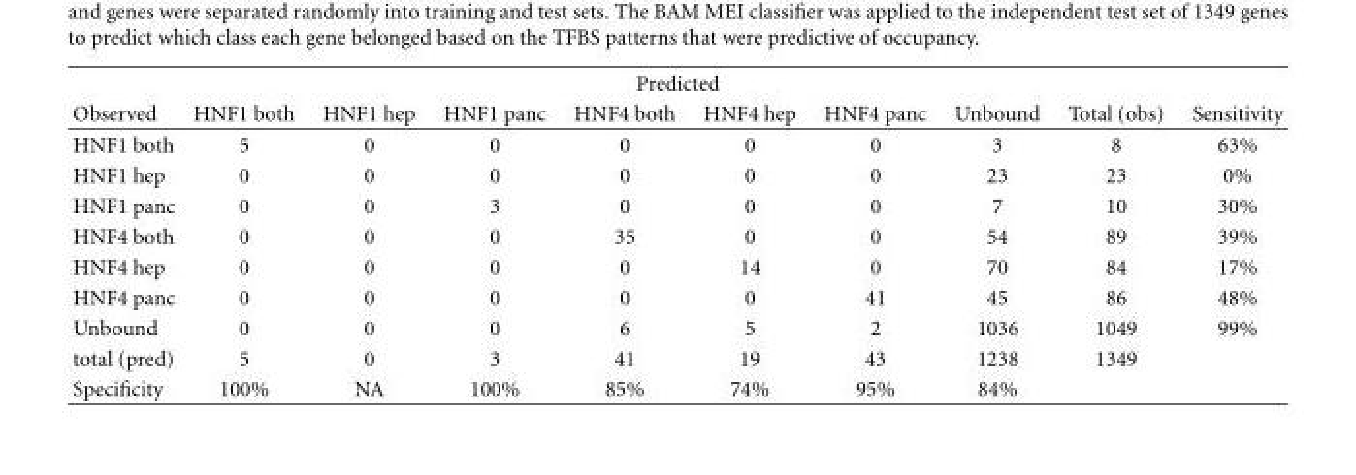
<table><thead><tr><td colspan="10">Predicted</td></tr><tr><td>Observed</td><td>HNF1 both</td><td>HNF1 hep</td><td>HNF1 panc</td><td>HNF4 both</td><td>HNF4 hep</td><td>HNF4 panc</td><td>Unbound</td><td>Total (obs)</td><td>Sensitivity</td></tr></thead><tbody><tr><td>HNF1 both</td><td>5</td><td>0</td><td>0</td><td>0</td><td>0</td><td>0</td><td>3</td><td>8</td><td>63%</td></tr><tr><td>HNF1 hep</td><td>0</td><td>0</td><td>0</td><td>0</td><td>0</td><td>0</td><td>23</td><td>23</td><td>0%</td></tr><tr><td>HNF1 panc</td><td>0</td><td>0</td><td>3</td><td>0</td><td>0</td><td>0</td><td>7</td><td>10</td><td>30%</td></tr><tr><td>HNF4 both</td><td>0</td><td>0</td><td>0</td><td>35</td><td>0</td><td>0</td><td>54</td><td>89</td><td>39%</td></tr><tr><td>HNF4 hep</td><td>0</td><td>0</td><td>0</td><td>0</td><td>14</td><td>0</td><td>70</td><td>84</td><td>17%</td></tr><tr><td>HNF4 panc</td><td>0</td><td>0</td><td>0</td><td>0</td><td>0</td><td>41</td><td>45</td><td>86</td><td>48%</td></tr><tr><td>Unbound</td><td>0</td><td>0</td><td>0</td><td>6</td><td>5</td><td>2</td><td>1036</td><td>1049</td><td>99%</td></tr><tr><td>total (pred)</td><td>5</td><td>0</td><td>3</td><td>41</td><td>19</td><td>43</td><td>1238</td><td>1349</td><td></td></tr><tr><td>Specificity</td><td>100%</td><td>NA</td><td>100%</td><td>85%</td><td>74%</td><td>95%</td><td>84%</td><td></td><td></td></tr></tbody></table>